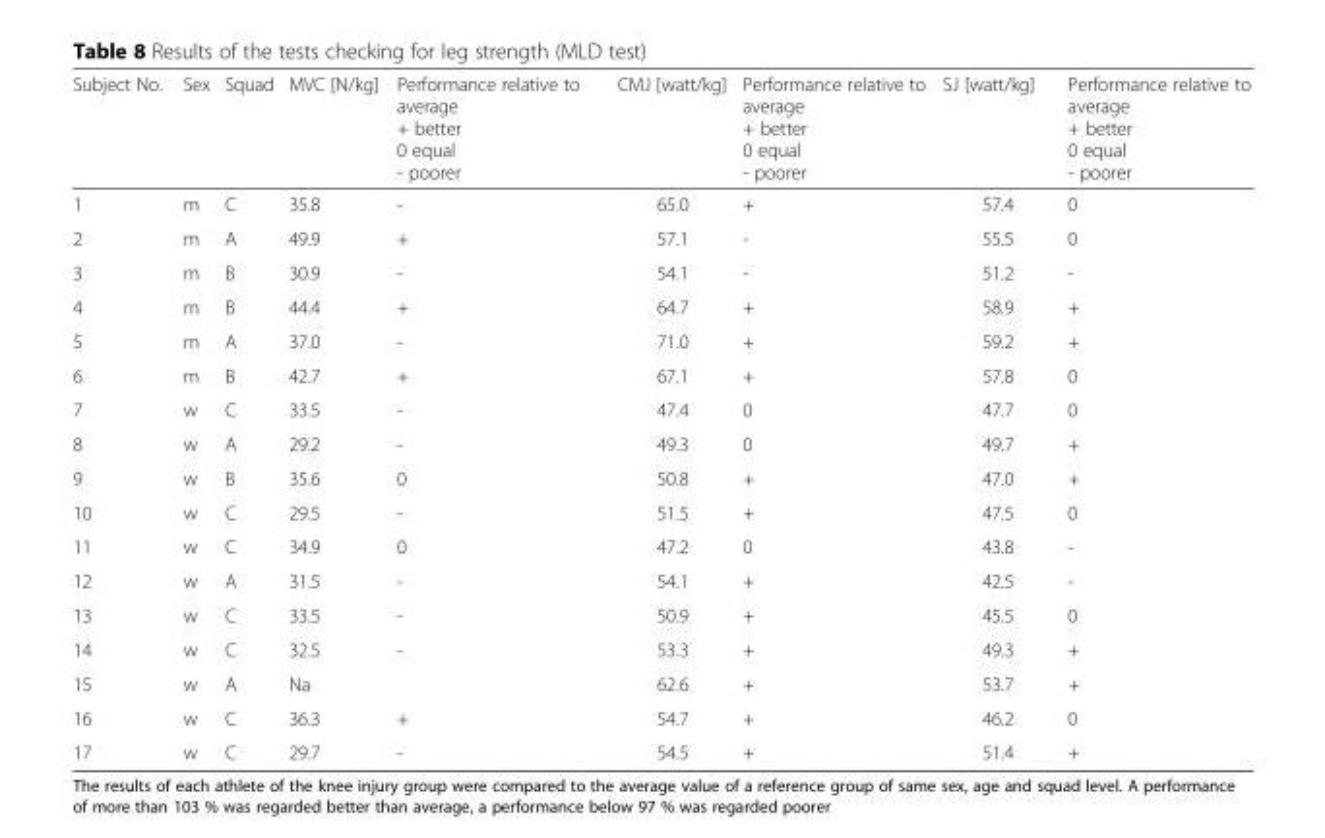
<table><thead><tr><td>Subject No.</td><td>Sex</td><td>Squad</td><td>MVC [N/kg]</td><td>Performance relative to average + better 0 equal - poorer</td><td>CMJ [watt/kg]</td><td>Performance relative to average + better 0 equal - poorer</td><td>SJ [watt/kg]</td><td>Performance relative to average + better 0 equal - poorer</td></tr></thead><tbody><tr><td>1</td><td>m</td><td>C</td><td>35.8</td><td>-</td><td>65.0</td><td>+</td><td>57.4</td><td>0</td></tr><tr><td>2</td><td>m</td><td>A</td><td>49.9</td><td>+</td><td>57.1</td><td>-</td><td>55.5</td><td>0</td></tr><tr><td>3</td><td>m</td><td>B</td><td>30.9</td><td>-</td><td>54.1</td><td>-</td><td>51.2</td><td>-</td></tr><tr><td>4</td><td>m</td><td>B</td><td>44.4</td><td>+</td><td>64.7</td><td>+</td><td>58.9</td><td>+</td></tr><tr><td>5</td><td>m</td><td>A</td><td>37.0</td><td>-</td><td>71.0</td><td>+</td><td>59.2</td><td>+</td></tr><tr><td>6</td><td>m</td><td>B</td><td>42.7</td><td>+</td><td>67.1</td><td>+</td><td>57.8</td><td>0</td></tr><tr><td>7</td><td>w</td><td>C</td><td>33.5</td><td>-</td><td>47.4</td><td>0</td><td>47.7</td><td>0</td></tr><tr><td>8</td><td>w</td><td>A</td><td>29.2</td><td>-</td><td>49.3</td><td>0</td><td>49.7</td><td>+</td></tr><tr><td>9</td><td>w</td><td>B</td><td>35.6</td><td>0</td><td>50.8</td><td>+</td><td>47.0</td><td>+</td></tr><tr><td>10</td><td>w</td><td>C</td><td>29.5</td><td>-</td><td>51.5</td><td>+</td><td>47.5</td><td>0</td></tr><tr><td>11</td><td>w</td><td>C</td><td>34.9</td><td>0</td><td>47.2</td><td>0</td><td>43.8</td><td>-</td></tr><tr><td>12</td><td>w</td><td>A</td><td>31.5</td><td>-</td><td>54.1</td><td>+</td><td>42.5</td><td>-</td></tr><tr><td>13</td><td>w</td><td>C</td><td>33.5</td><td>-</td><td>50.9</td><td>+</td><td>45.5</td><td>0</td></tr><tr><td>14</td><td>w</td><td>C</td><td>32.5</td><td>-</td><td>53.3</td><td>+</td><td>49.3</td><td>+</td></tr><tr><td>15</td><td>w</td><td>A</td><td>Na</td><td></td><td>62.6</td><td>+</td><td>53.7</td><td>+</td></tr><tr><td>16</td><td>w</td><td>C</td><td>36.3</td><td>+</td><td>54.7</td><td>+</td><td>46.2</td><td>0</td></tr><tr><td>17</td><td>w</td><td>C</td><td>29.7</td><td>-</td><td>54.5</td><td>+</td><td>51.4</td><td>+</td></tr></tbody></table>